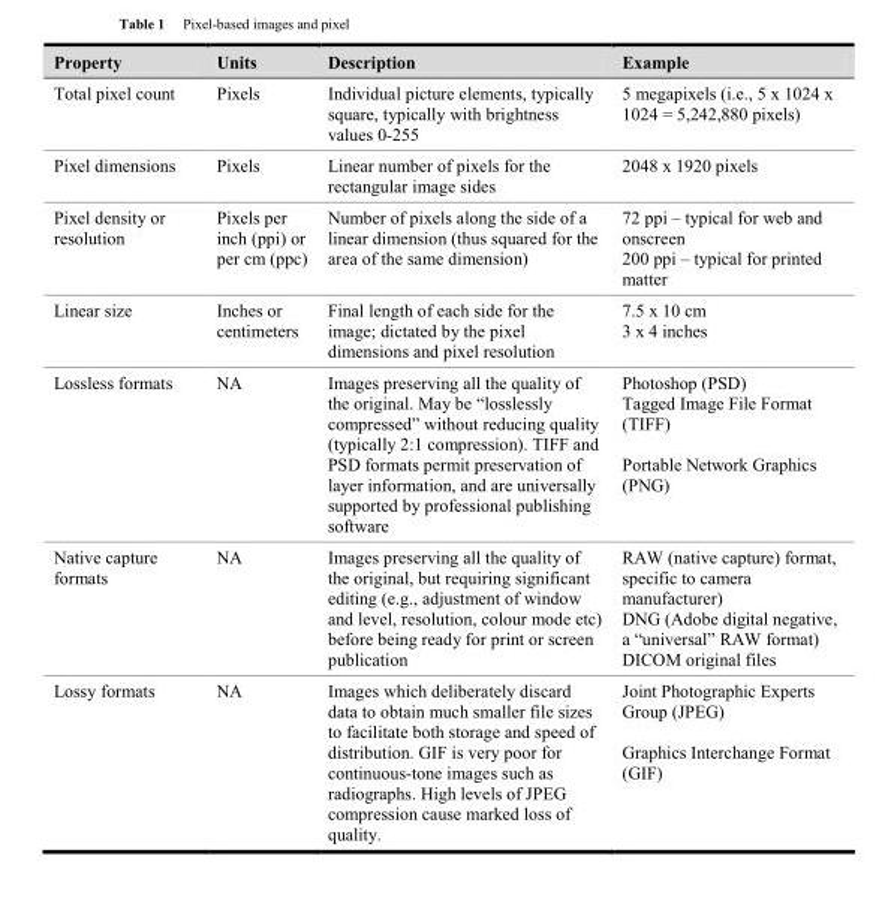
<table><thead><tr><td>Property</td><td>Units</td><td>Description</td><td>Example</td></tr></thead><tbody><tr><td>Total pixel count</td><td>Pixels</td><td>Individual picture elements, typically square, typically with brightness values 0-255</td><td>5 megapixels (i.e., 5 x 1024 x 1024 = 5,242,880 pixels)</td></tr><tr><td>Pixel dimensions</td><td>Pixels</td><td>Linear number of pixels for the rectangular image sides</td><td>2048 x 1920 pixels</td></tr><tr><td>Pixel density or resolution</td><td>Pixels per inch (ppi) or per cm (ppc)</td><td>Number of pixels along the side of a linear dimension (thus squared for the area of the same dimension)</td><td>72 ppi – typical for web and onscreen 200 ppi – typical for printed matter</td></tr><tr><td>Linear size</td><td>Inches or centimeters</td><td>Final length of each side for the image; dictated by the pixel dimensions and pixel resolution</td><td>7.5 x 10 cm 3 x 4 inches</td></tr><tr><td>Lossless formats</td><td>NA</td><td>Images preserving all the quality of the original. May be “losslessly compressed” without reducing quality (typically 2:1 compression). TIFF and PSD formats permit preservation of layer information, and are universally supported by professional publishing software</td><td>Photoshop (PSD) Tagged Image File Format (TIFF) Portable Network Graphics (PNG)</td></tr><tr><td>Native capture formats</td><td>NA</td><td>Images preserving all the quality of the original, but requiring significant editing (e.g., adjustment of window and level, resolution, colour mode etc) before being ready for print or screen publication</td><td>RAW (native capture) format, specific to camera manufacturer) DNG (Adobe digital negative, a “universal” RAW format) DICOM original files</td></tr><tr><td>Lossy formats</td><td>NA</td><td>Images which deliberately discard data to obtain much smaller file sizes to facilitate both storage and speed of distribution. GIF is very poor for continuous-tone images such as radiographs. High levels of JPEG compression cause marked loss of quality.</td><td>Joint Photographic Experts Group (JPEG) Graphics Interchange Format (GIF)</td></tr></tbody></table>